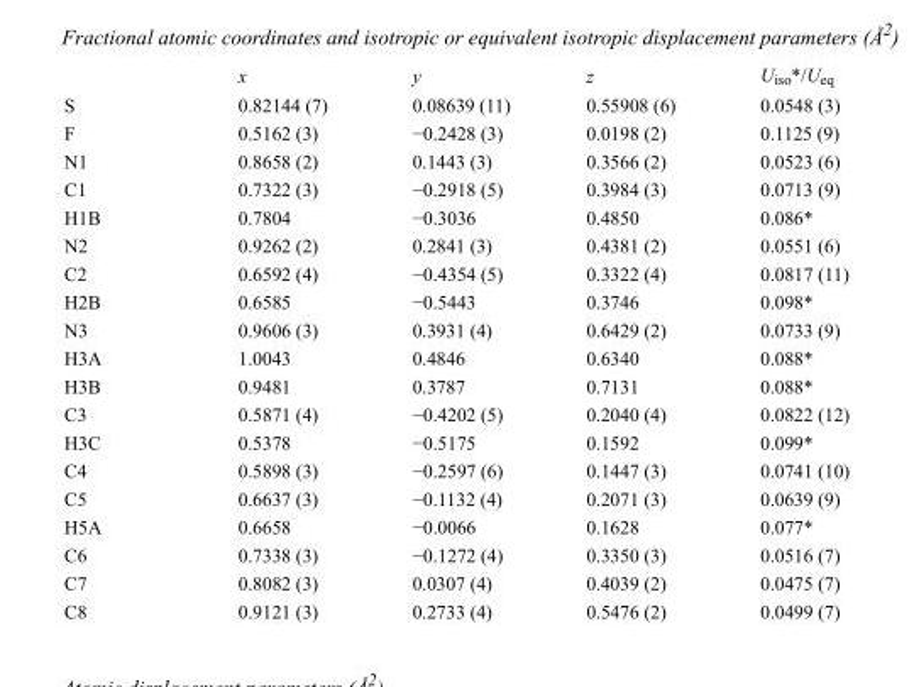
<table><thead><tr><td></td><td>x</td><td>y</td><td>z</td><td>U<sub>iso</sub>*/U<sub>eq</sub></td></tr></thead><tbody><tr><td>S</td><td>0.82144 (7)</td><td>0.08639 (11)</td><td>0.55908 (6)</td><td>0.0548 (3)</td></tr><tr><td>F</td><td>0.5162 (3)</td><td>−0.2428 (3)</td><td>0.0198 (2)</td><td>0.1125 (9)</td></tr><tr><td>N1</td><td>0.8658 (2)</td><td>0.1443 (3)</td><td>0.3566 (2)</td><td>0.0523 (6)</td></tr><tr><td>C1</td><td>0.7322 (3)</td><td>−0.2918 (5)</td><td>0.3984 (3)</td><td>0.0713 (9)</td></tr><tr><td>H1B</td><td>0.7804</td><td>−0.3036</td><td>0.4850</td><td>0.086*</td></tr><tr><td>N2</td><td>0.9262 (2)</td><td>0.2841 (3)</td><td>0.4381 (2)</td><td>0.0551 (6)</td></tr><tr><td>C2</td><td>0.6592 (4)</td><td>−0.4354 (5)</td><td>0.3322 (4)</td><td>0.0817 (11)</td></tr><tr><td>H2B</td><td>0.6585</td><td>−0.5443</td><td>0.3746</td><td>0.098*</td></tr><tr><td>N3</td><td>0.9606 (3)</td><td>0.3931 (4)</td><td>0.6429 (2)</td><td>0.0733 (9)</td></tr><tr><td>H3A</td><td>1.0043</td><td>0.4846</td><td>0.6340</td><td>0.088*</td></tr><tr><td>H3B</td><td>0.9481</td><td>0.3787</td><td>0.7131</td><td>0.088*</td></tr><tr><td>C3</td><td>0.5871 (4)</td><td>−0.4202 (5)</td><td>0.2040 (4)</td><td>0.0822 (12)</td></tr><tr><td>H3C</td><td>0.5378</td><td>−0.5175</td><td>0.1592</td><td>0.099*</td></tr><tr><td>C4</td><td>0.5898 (3)</td><td>−0.2597 (6)</td><td>0.1447 (3)</td><td>0.0741 (10)</td></tr><tr><td>C5</td><td>0.6637 (3)</td><td>−0.1132 (4)</td><td>0.2071 (3)</td><td>0.0639 (9)</td></tr><tr><td>H5A</td><td>0.6658</td><td>−0.0066</td><td>0.1628</td><td>0.077*</td></tr><tr><td>C6</td><td>0.7338 (3)</td><td>−0.1272 (4)</td><td>0.3350 (3)</td><td>0.0516 (7)</td></tr><tr><td>C7</td><td>0.8082 (3)</td><td>0.0307 (4)</td><td>0.4039 (2)</td><td>0.0475 (7)</td></tr><tr><td>C8</td><td>0.9121 (3)</td><td>0.2733 (4)</td><td>0.5476 (2)</td><td>0.0499 (7)</td></tr></tbody></table>